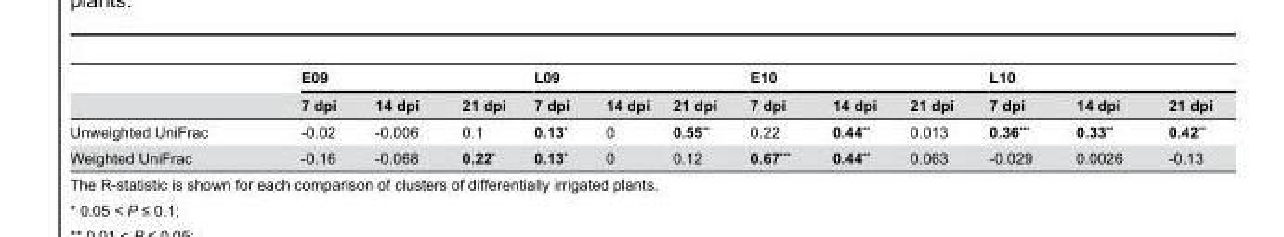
<table><thead><tr><td rowspan="2"></td><td colspan="3">E09</td><td colspan="3">L09</td><td colspan="3">E10</td><td colspan="3">L10</td></tr><tr><td>7 dpi</td><td>14 dpi</td><td>21 dpi</td><td>7 dpi</td><td>14 dpi</td><td>21 dpi</td><td>7 dpi</td><td>14 dpi</td><td>21 dpi</td><td>7 dpi</td><td>14 dpi</td><td>21 dpi</td></tr></thead><tbody><tr><td>Unweighted UniFrac</td><td>-0.02</td><td>-0.006</td><td>0.1</td><td>0.13*</td><td>0</td><td>0.55**</td><td>0.22</td><td>0.44**</td><td>0.013</td><td>0.36***</td><td>0.33**</td><td>0.42**</td></tr><tr><td>Weighted UniFrac</td><td>-0.16</td><td>-0.068</td><td>0.22*</td><td>0.13*</td><td>0</td><td>0.12</td><td>0.67***</td><td>0.44**</td><td>0.063</td><td>-0.029</td><td>0.0026</td><td>-0.13</td></tr></tbody></table>